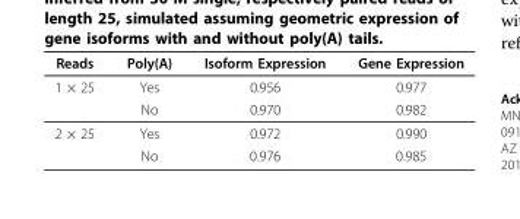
<table><thead><tr><td>Reads</td><td>Poly(A)</td><td>Isoform Expression</td><td>Gene Expression</td></tr></thead><tbody><tr><td rowspan="2">1 × 25</td><td>Yes</td><td>0.956</td><td>0.977</td></tr><tr><td>No</td><td>0.970</td><td>0.982</td></tr><tr><td rowspan="2">2 × 25</td><td>Yes</td><td>0.972</td><td>0.990</td></tr><tr><td>No</td><td>0.976</td><td>0.985</td></tr></tbody></table>